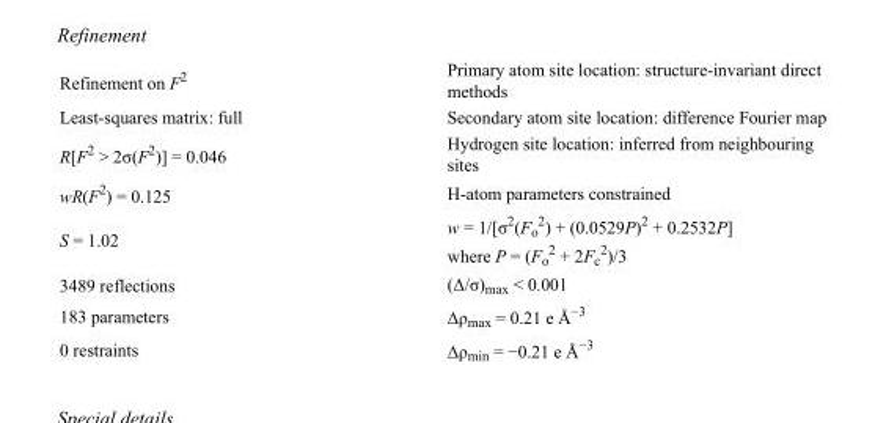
<table><tbody><tr><td>Refinement on F<sup>2</sup></td><td>Primary atom site location: structure-invariant direct methods</td></tr><tr><td>Least-squares matrix: full</td><td>Secondary atom site location: difference Fourier map</td></tr><tr><td>R[F<sup>2</sup> &gt; 2σ(F<sup>2</sup>)] = 0.046</td><td>Hydrogen site location: inferred from neighbouring sites</td></tr><tr><td>wR(F<sup>2</sup>) = 0.125</td><td>H-atom parameters constrained</td></tr><tr><td>S = 1.02</td><td>w = 1/[σ<sup>2</sup>(F<sub>o</sub> <sup>2</sup>) + (0.0529P)<sup>2</sup> + 0.2532P] where P = (F<sub>o</sub> <sup>2</sup> + 2F<sub>c</sub> <sup>2</sup>)/3</td></tr><tr><td>3489 reflections</td><td>(Δ/σ)<sub>max</sub> &lt; 0.001</td></tr><tr><td>183 parameters</td><td>Δρ<sub>max</sub> = 0.21 e Å<sup>−3</sup></td></tr><tr><td>0 restraints</td><td>Δρmin = −0.21 e Å−3</td></tr></tbody></table>